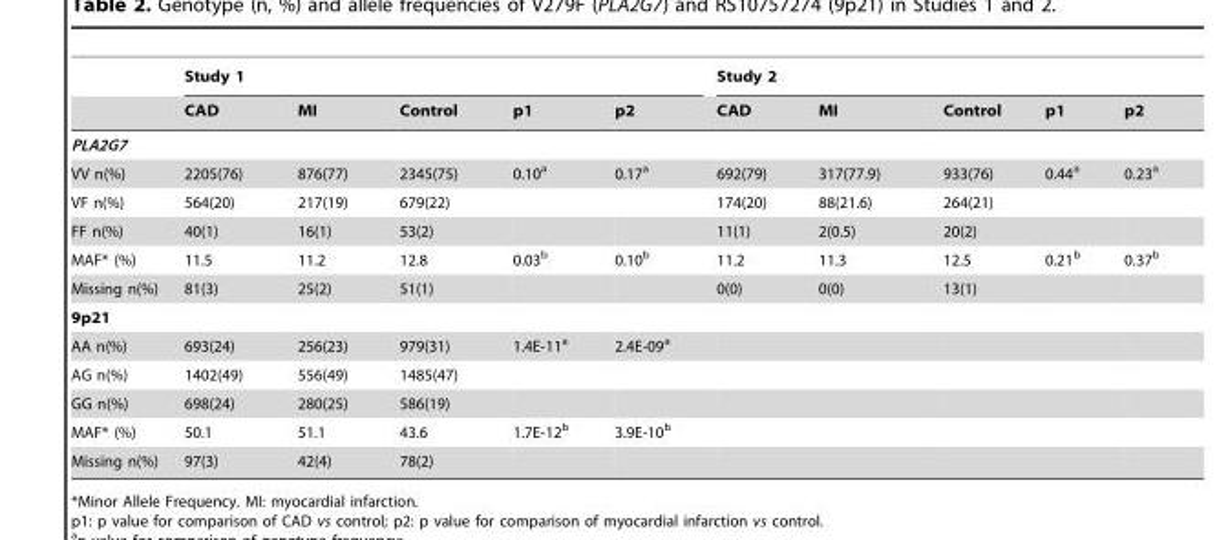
<table><thead><tr><td rowspan="2"></td><td colspan="5">Study 1</td><td colspan="5">Study 2</td></tr><tr><td>CAD</td><td>MI</td><td>Control</td><td>p1</td><td>p2</td><td>CAD</td><td>MI</td><td>Control</td><td>p1</td><td>p2</td></tr></thead><tbody><tr><td colspan="11">PLA2G7</td></tr><tr><td>VV n(%)</td><td>2205(76)</td><td>876(77)</td><td>2345(75)</td><td>0.10<sup>a</sup></td><td>0.17<sup>a</sup></td><td>692(79)</td><td>317(77.9)</td><td>933(76)</td><td>0.44<sup>a</sup></td><td>0.23<sup>a</sup></td></tr><tr><td>VF n(%)</td><td>564(20)</td><td>217(19)</td><td>679(22)</td><td></td><td></td><td>174(20)</td><td>88(21.6)</td><td>264(21)</td><td></td><td></td></tr><tr><td>FF n(%)</td><td>40(1)</td><td>16(1)</td><td>53(2)</td><td></td><td></td><td>11(1)</td><td>2(0.5)</td><td>20(2)</td><td></td><td></td></tr><tr><td>MAF* (%)</td><td>11.5</td><td>11.2</td><td>12.8</td><td>0.03<sup>b</sup></td><td>0.10<sup>b</sup></td><td>11.2</td><td>11.3</td><td>12.5</td><td>0.21<sup>b</sup></td><td>0.37<sup>b</sup></td></tr><tr><td>Missing n(%)</td><td>81(3)</td><td>25(2)</td><td>51(1)</td><td></td><td></td><td>0(0)</td><td>0(0)</td><td>13(1)</td><td></td><td></td></tr><tr><td colspan="11">9p21</td></tr><tr><td>AA n(%)</td><td>693(24)</td><td>256(23)</td><td>979(31)</td><td>1.4E-11<sup>a</sup></td><td>2.4E-09<sup>a</sup></td><td></td><td></td><td></td><td></td><td></td></tr><tr><td>AG n(%)</td><td>1402(49)</td><td>556(49)</td><td>1485(47)</td><td></td><td></td><td></td><td></td><td></td><td></td><td></td></tr><tr><td>GG n(%)</td><td>698(24)</td><td>280(25)</td><td>586(19)</td><td></td><td></td><td></td><td></td><td></td><td></td><td></td></tr><tr><td>MAF* (%)</td><td>50.1</td><td>51.1</td><td>43.6</td><td>1.7E-12<sup>b</sup></td><td>3.9E-10<sup>b</sup></td><td></td><td></td><td></td><td></td><td></td></tr><tr><td>Missing n(%)</td><td>97(3)</td><td>42(4)</td><td>78(2)</td><td></td><td></td><td></td><td></td><td></td><td></td><td></td></tr></tbody></table>